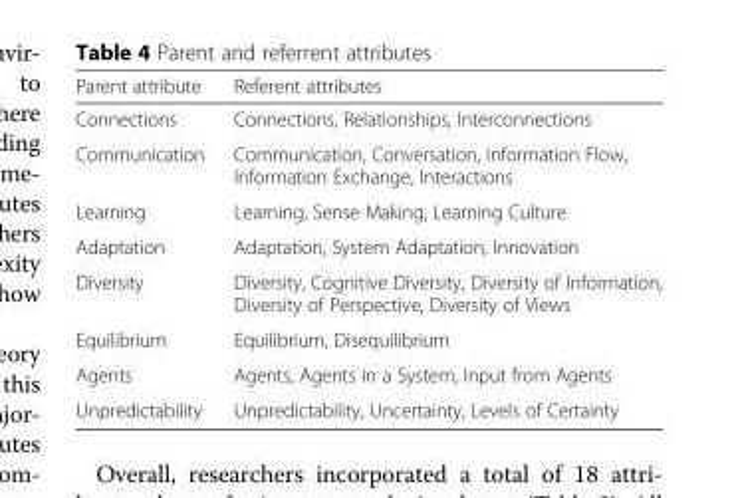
<table><thead><tr><td>Parent attribute</td><td>Referent attributes</td></tr></thead><tbody><tr><td>Connections</td><td>Connections, Relationships, Interconnections</td></tr><tr><td>Communication</td><td>Communication, Conversation, Information Flow, Information Exchange, Interactions</td></tr><tr><td>Learning</td><td>Learning, Sense Making, Learning Culture</td></tr><tr><td>Adaptation</td><td>Adaptation, System Adaptation, Innovation</td></tr><tr><td>Diversity</td><td>Diversity, Cognitive Diversity, Diversity of Information, Diversity of Perspective, Diversity of Views</td></tr><tr><td>Equilibrium</td><td>Equilibrium, Disequilibrium</td></tr><tr><td>Agents</td><td>Agents, Agents in a System, Input from Agents</td></tr><tr><td>Unpredictability</td><td>Unpredictability, Uncertainty, Levels of Certainty</td></tr></tbody></table>